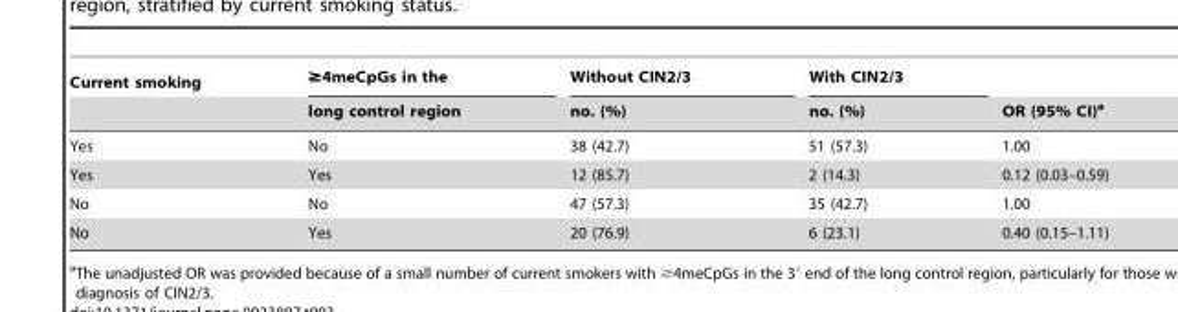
<table><thead><tr><td rowspan="2">Current smoking</td><td rowspan="2">≥4meCpGs in the long control region</td><td rowspan="2">Without CIN2/3 no. (%)</td><td rowspan="2">With CIN2/3 no. (%)</td><td rowspan="2">OR (95% CI)<sup>a</sup></td></tr><tr></tr></thead><tbody><tr><td>Yes</td><td>No</td><td>38 (42.7)</td><td>51 (57.3)</td><td>1.00</td></tr><tr><td>Yes</td><td>Yes</td><td>12 (85.7)</td><td>2 (14.3)</td><td>0.12 (0.03–0.59)</td></tr><tr><td>No</td><td>No</td><td>47 (57.3)</td><td>35 (42.7)</td><td>1.00</td></tr><tr><td>No</td><td>Yes</td><td>20 (76.9)</td><td>6 (23.1)</td><td>0.40 (0.15–1.11)</td></tr></tbody></table>